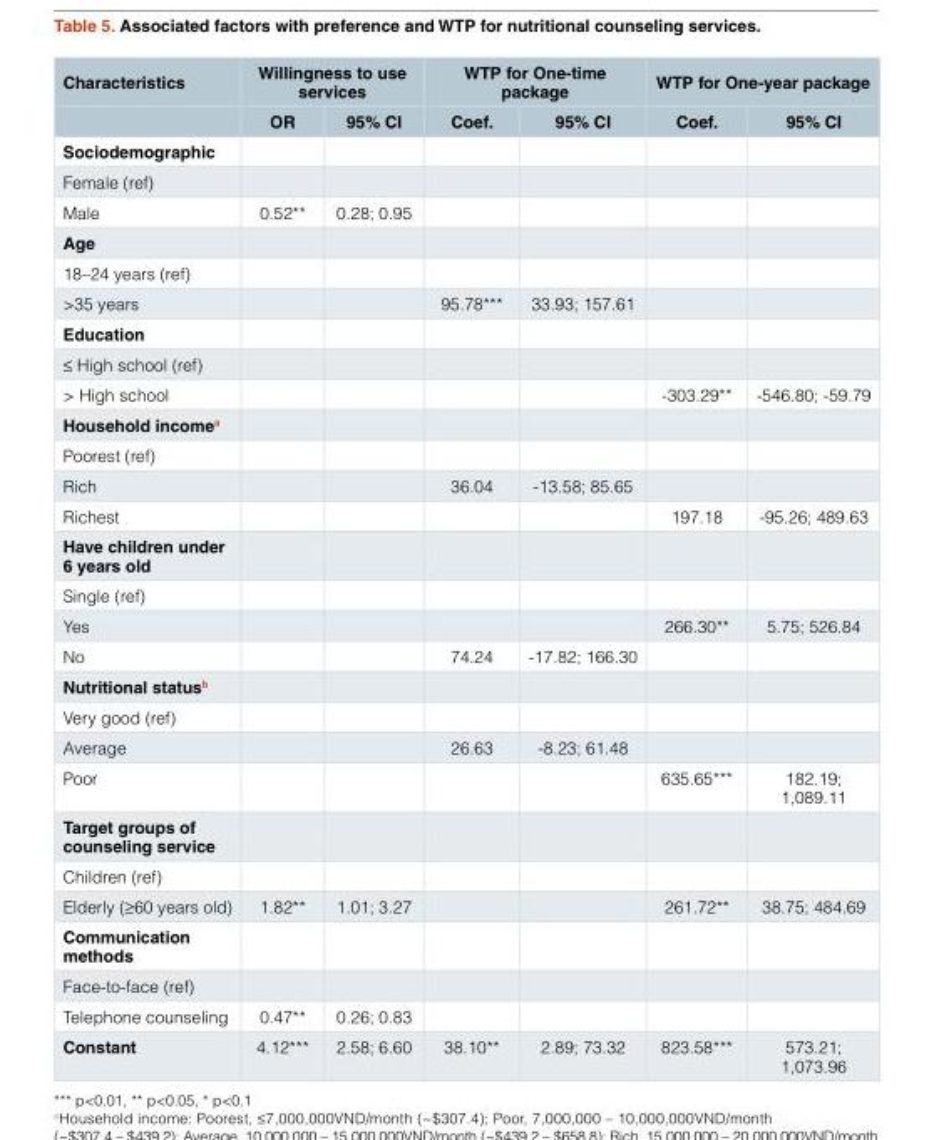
<table><thead><tr><td rowspan="2">Characteristics</td><td colspan="2">Willingness to use services</td><td colspan="2">WTP for One-time package</td><td colspan="2">WTP for One-year package</td></tr><tr><td>OR</td><td>95% CI</td><td>Coef.</td><td>95% CI</td><td>Coef.</td><td>95% CI</td></tr></thead><tbody><tr><td colspan="7">Sociodemographic</td></tr><tr><td colspan="7">Female (ref)</td></tr><tr><td>Male</td><td>0.52**</td><td>0.28; 0.95</td><td></td><td></td><td></td><td></td></tr><tr><td colspan="7">Age</td></tr><tr><td colspan="7">18–24 years (ref)</td></tr><tr><td>&gt;35 years</td><td></td><td></td><td>95.78***</td><td>33.93; 157.61</td><td></td><td></td></tr><tr><td colspan="7">Education</td></tr><tr><td colspan="7">≤ High school (ref)</td></tr><tr><td>&gt; High school</td><td></td><td></td><td></td><td></td><td>-303.29**</td><td>-546.80; -59.79</td></tr><tr><td colspan="7">Household income<sup>a</sup></td></tr><tr><td colspan="7">Poorest (ref)</td></tr><tr><td>Rich</td><td></td><td></td><td>36.04</td><td>-13.58; 85.65</td><td></td><td></td></tr><tr><td>Richest</td><td></td><td></td><td></td><td></td><td>197.18</td><td>-95.26; 489.63</td></tr><tr><td colspan="7">Have children under 6 years old</td></tr><tr><td colspan="7">Single (ref)</td></tr><tr><td>Yes</td><td></td><td></td><td></td><td></td><td>266.30**</td><td>5.75; 526.84</td></tr><tr><td>No</td><td></td><td></td><td>74.24</td><td>-17.82; 166.30</td><td></td><td></td></tr><tr><td colspan="7">Nutritional status<sup>b</sup></td></tr><tr><td colspan="7">Very good (ref)</td></tr><tr><td>Average</td><td></td><td></td><td>26.63</td><td>-8.23; 61.48</td><td></td><td></td></tr><tr><td>Poor</td><td></td><td></td><td></td><td></td><td>635.65***</td><td>182.19; 1,089.11</td></tr><tr><td colspan="7">Target groups of counseling service</td></tr><tr><td colspan="7">Children (ref)</td></tr><tr><td>Elderly (≥60 years old)</td><td>1.82**</td><td>1.01; 3.27</td><td></td><td></td><td>261.72**</td><td>38.75; 484.69</td></tr><tr><td colspan="7">Communication methods</td></tr><tr><td colspan="7">Face-to-face (ref)</td></tr><tr><td>Telephone counseling</td><td>0.47**</td><td>0.26; 0.83</td><td></td><td></td><td></td><td></td></tr><tr><td>Constant</td><td>4.12***</td><td>2.58; 6.60</td><td>38.10**</td><td>2.89; 73.32</td><td>823.58***</td><td>573.21; 1,073.96</td></tr></tbody></table>